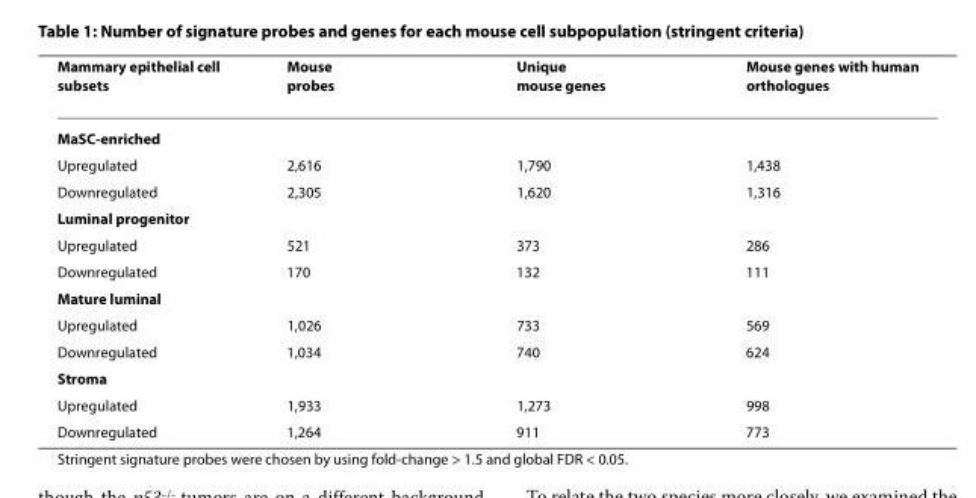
<table><thead><tr><td>Mammary epithelial cell subsets</td><td>Mouse probes</td><td>Unique mouse genes</td><td>Mouse genes with human orthologues</td></tr></thead><tbody><tr><td colspan="4">MaSC-enriched</td></tr><tr><td>Upregulated</td><td>2,616</td><td>1,790</td><td>1,438</td></tr><tr><td>Downregulated</td><td>2,305</td><td>1,620</td><td>1,316</td></tr><tr><td colspan="4">Luminal progenitor</td></tr><tr><td>Upregulated</td><td>521</td><td>373</td><td>286</td></tr><tr><td>Downregulated</td><td>170</td><td>132</td><td>111</td></tr><tr><td colspan="4">Mature luminal</td></tr><tr><td>Upregulated</td><td>1,026</td><td>733</td><td>569</td></tr><tr><td>Downregulated</td><td>1,034</td><td>740</td><td>624</td></tr><tr><td colspan="4">Stroma</td></tr><tr><td>Upregulated</td><td>1,933</td><td>1,273</td><td>998</td></tr><tr><td>Downregulated</td><td>1,264</td><td>911</td><td>773</td></tr></tbody></table>